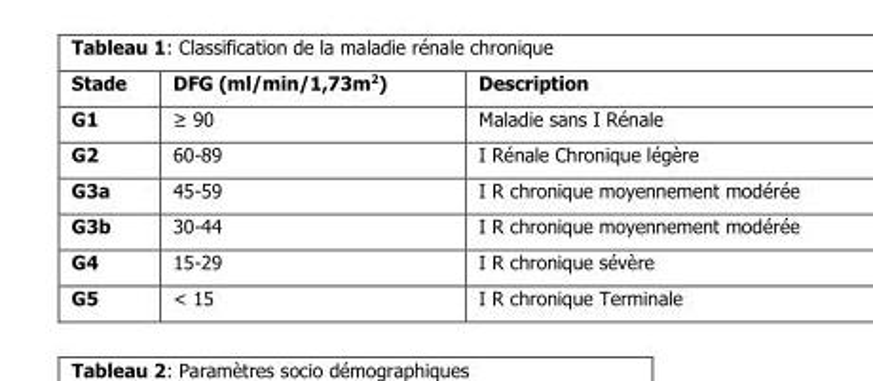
<table><thead><tr><td>Stade</td><td>DFG (ml/min/1,73m<sup>2</sup>)</td><td>Description</td></tr></thead><tbody><tr><td>G1</td><td>≥ 90</td><td>Maladie sans I Rénale</td></tr><tr><td>G2</td><td>60-89</td><td>I Rénale Chronique légère</td></tr><tr><td>G3a</td><td>45-59</td><td>I R chronique moyennement modérée</td></tr><tr><td>G3b</td><td>30-44</td><td>I R chronique moyennement modérée</td></tr><tr><td>G4</td><td>15-29</td><td>I R chronique sévère</td></tr><tr><td>G5</td><td>&lt; 15</td><td>I R chronique Terminale</td></tr></tbody></table>